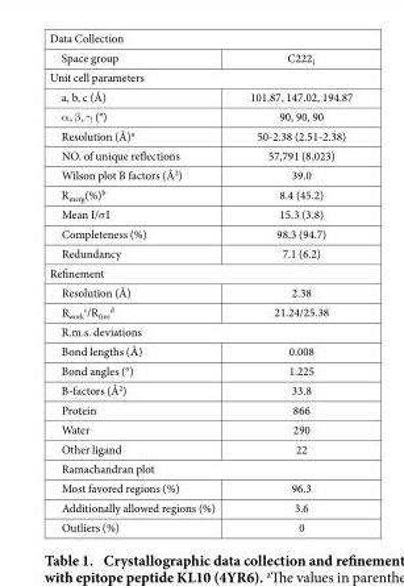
<table><tbody><tr><td>Space group</td><td>C222<sub>1</sub></td></tr><tr><td colspan="2">Unit cell parameters</td></tr><tr><td>a, b, c (Å)</td><td>101.87, 147.02, 194.87</td></tr><tr><td>α , β , γ (°)</td><td>90, 90, 90</td></tr><tr><td>Resolution (Å)<sup>a</sup></td><td>50-2.38 (2.51-2.38)</td></tr><tr><td>NO. of unique reflections</td><td>57,791 (8,023)</td></tr><tr><td>Wilson plot B factors (Å<sup>2</sup>)</td><td>39.0</td></tr><tr><td>R<sub>merg</sub>(%)<sup>b</sup></td><td>8.4 (45.2)</td></tr><tr><td>Mean I/σ I</td><td>15.3 (3.8)</td></tr><tr><td>Completeness (%)</td><td>98.3 (94.7)</td></tr><tr><td>Redundancy</td><td>7.1 (6.2)</td></tr><tr><td colspan="2">Refinement</td></tr><tr><td>Resolution (Å)</td><td>2.38</td></tr><tr><td>R<sub>work</sub> <sup>c</sup>/R<sub>free</sub> <sup>d</sup></td><td>21.24/25.38</td></tr><tr><td colspan="2">R.m.s. deviations</td></tr><tr><td>Bond lengths (Å)</td><td>0.008</td></tr><tr><td>Bond angles (°)</td><td>1.225</td></tr><tr><td>B-factors (Å<sup>2</sup>)</td><td>33.8</td></tr><tr><td>Protein</td><td>866</td></tr><tr><td>Water</td><td>290</td></tr><tr><td>Other ligand</td><td>22</td></tr><tr><td colspan="2">Ramachandran plot</td></tr><tr><td>Most favored regions (%)</td><td>96.3</td></tr><tr><td>Additionally allowed regions (%)</td><td>3.6</td></tr><tr><td>Outliers (%)</td><td>0</td></tr></tbody></table>